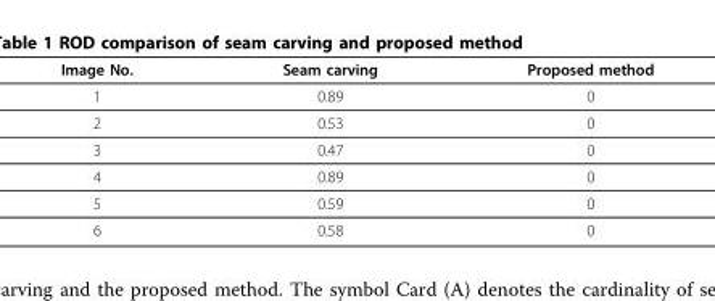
<table><thead><tr><td>Image No.</td><td>Seam carving</td><td>Proposed method</td></tr></thead><tbody><tr><td>1</td><td>0.89</td><td>0</td></tr><tr><td>2</td><td>0.53</td><td>0</td></tr><tr><td>3</td><td>0.47</td><td>0</td></tr><tr><td>4</td><td>0.89</td><td>0</td></tr><tr><td>5</td><td>0.59</td><td>0</td></tr><tr><td>6</td><td>0.58</td><td>0</td></tr></tbody></table>